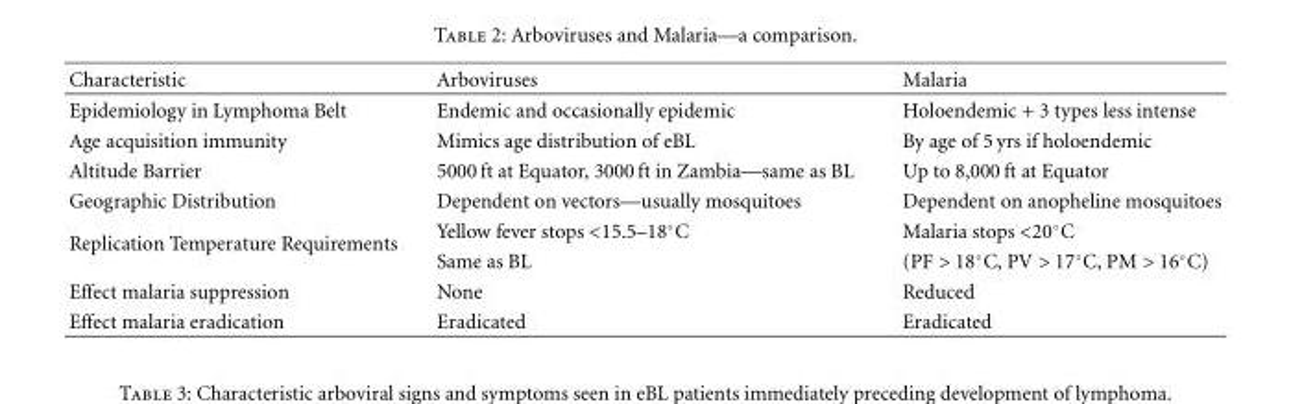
<table><thead><tr><td>Characteristic</td><td>Arboviruses</td><td>Malaria</td></tr></thead><tbody><tr><td>Epidemiology in Lymphoma Belt</td><td>Endemic and occasionally epidemic</td><td>Holoendemic + 3 types less intense</td></tr><tr><td>Age acquisition immunity</td><td>Mimics age distribution of eBL</td><td>By age of 5 yrs if holoendemic</td></tr><tr><td>Altitude Barrier</td><td>5000 ft at Equator, 3000 ft in Zambia—same as BL</td><td>Up to 8,000 ft at Equator</td></tr><tr><td>Geographic Distribution</td><td>Dependent on vectors—usually mosquitoes</td><td>Dependent on anopheline mosquitoes</td></tr><tr><td rowspan="2">Replication Temperature Requirements</td><td>Yellow fever stops &lt;15.5–18◦C</td><td>Malaria stops &lt;20◦C</td></tr><tr><td>Same as BL</td><td>(PF &gt; 18◦C, PV &gt; 17◦C, PM &gt; 16◦C)</td></tr><tr><td>Effect malaria suppression</td><td>None</td><td>Reduced</td></tr><tr><td>Effect malaria eradication</td><td>Eradicated</td><td>Eradicated</td></tr></tbody></table>